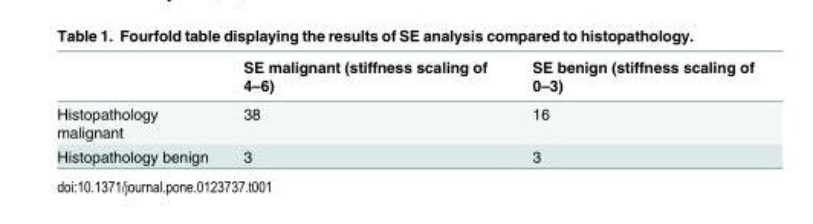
<table><thead><tr><td></td><td>SE malignant (stiffness scaling of 4–6)</td><td>SE benign (stiffness scaling of 0–3)</td></tr></thead><tbody><tr><td>Histopathology malignant</td><td>38</td><td>16</td></tr><tr><td>Histopathology benign</td><td>3</td><td>3</td></tr></tbody></table>